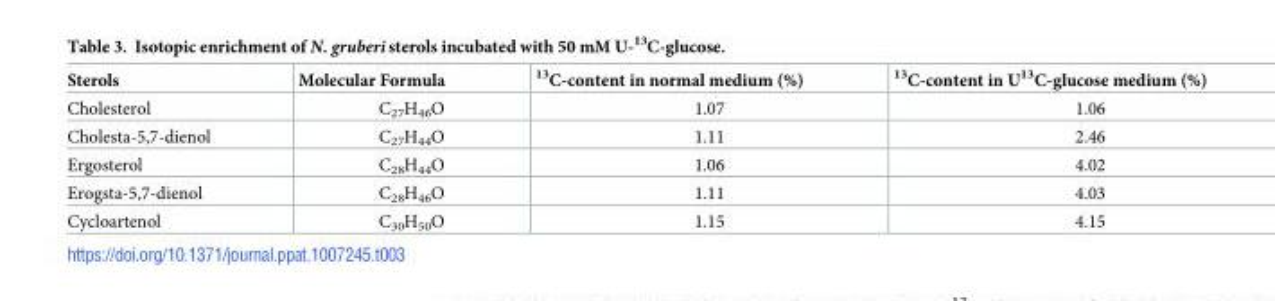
<table><thead><tr><td>Sterols</td><td>Molecular Formula</td><td><sup>13</sup>C-content in normal medium (%)</td><td><sup>13</sup>C-content in U<sup>13</sup>C-glucose medium (%)</td></tr></thead><tbody><tr><td>Cholesterol</td><td>C<sub>27</sub>H<sub>46</sub>O</td><td>1.07</td><td>1.06</td></tr><tr><td>Cholesta-5,7-dienol</td><td>C<sub>27</sub>H<sub>44</sub>O</td><td>1.11</td><td>2.46</td></tr><tr><td>Ergosterol</td><td>C<sub>28</sub>H<sub>44</sub>O</td><td>1.06</td><td>4.02</td></tr><tr><td>Erogsta-5,7-dienol</td><td>C<sub>28</sub>H<sub>46</sub>O</td><td>1.11</td><td>4.03</td></tr><tr><td>Cycloartenol</td><td>C<sub>30</sub>H<sub>50</sub>O</td><td>1.15</td><td>4.15</td></tr></tbody></table>